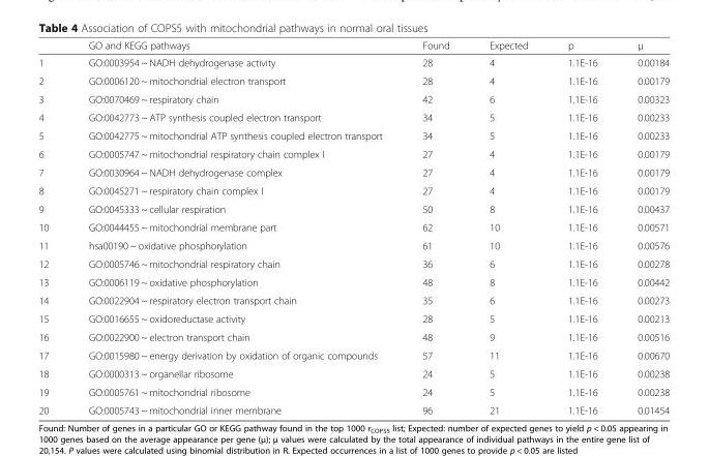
<table><thead><tr><td></td><td>GO and KEGG pathways</td><td>Found</td><td>Expected</td><td>p</td><td>μ</td></tr></thead><tbody><tr><td>1</td><td>GO:0003954 ~ NADH dehydrogenase activity</td><td>28</td><td>4</td><td>1.1E-16</td><td>0.00184</td></tr><tr><td>2</td><td>GO:0006120 ~ mitochondrial electron transport</td><td>28</td><td>4</td><td>1.1E-16</td><td>0.00179</td></tr><tr><td>3</td><td>GO:0070469 ~ respiratory chain</td><td>42</td><td>6</td><td>1.1E-16</td><td>0.00323</td></tr><tr><td>4</td><td>GO:0042773 ~ ATP synthesis coupled electron transport</td><td>34</td><td>5</td><td>1.1E-16</td><td>0.00233</td></tr><tr><td>5</td><td>GO:0042775 ~ mitochondrial ATP synthesis coupled electron transport</td><td>34</td><td>5</td><td>1.1E-16</td><td>0.00233</td></tr><tr><td>6</td><td>GO:0005747 ~ mitochondrial respiratory chain complex I</td><td>27</td><td>4</td><td>1.1E-16</td><td>0.00179</td></tr><tr><td>7</td><td>GO:0030964 ~ NADH dehydrogenase complex</td><td>27</td><td>4</td><td>1.1E-16</td><td>0.00179</td></tr><tr><td>8</td><td>GO:0045271 ~ respiratory chain complex I</td><td>27</td><td>4</td><td>1.1E-16</td><td>0.00179</td></tr><tr><td>9</td><td>GO:0045333 ~ cellular respiration</td><td>50</td><td>8</td><td>1.1E-16</td><td>0.00437</td></tr><tr><td>10</td><td>GO:0044455 ~ mitochondrial membrane part</td><td>62</td><td>10</td><td>1.1E-16</td><td>0.00571</td></tr><tr><td>11</td><td>hsa00190 ~ oxidative phosphorylation</td><td>61</td><td>10</td><td>1.1E-16</td><td>0.00576</td></tr><tr><td>12</td><td>GO:0005746 ~ mitochondrial respiratory chain</td><td>36</td><td>6</td><td>1.1E-16</td><td>0.00278</td></tr><tr><td>13</td><td>GO:0006119 ~ oxidative phosphorylation</td><td>48</td><td>8</td><td>1.1E-16</td><td>0.00442</td></tr><tr><td>14</td><td>GO:0022904 ~ respiratory electron transport chain</td><td>35</td><td>6</td><td>1.1E-16</td><td>0.00273</td></tr><tr><td>15</td><td>GO:0016655 ~ oxidoreductase activity</td><td>28</td><td>5</td><td>1.1E-16</td><td>0.00213</td></tr><tr><td>16</td><td>GO:0022900 ~ electron transport chain</td><td>48</td><td>9</td><td>1.1E-16</td><td>0.00516</td></tr><tr><td>17</td><td>GO:0015980 ~ energy derivation by oxidation of organic compounds</td><td>57</td><td>11</td><td>1.1E-16</td><td>0.00670</td></tr><tr><td>18</td><td>GO:0000313 ~ organellar ribosome</td><td>24</td><td>5</td><td>1.1E-16</td><td>0.00238</td></tr><tr><td>19</td><td>GO:0005761 ~ mitochondrial ribosome</td><td>24</td><td>5</td><td>1.1E-16</td><td>0.00238</td></tr><tr><td>20</td><td>GO:0005743 ~ mitochondrial inner membrane</td><td>96</td><td>21</td><td>1.1E-16</td><td>0.01454</td></tr></tbody></table>